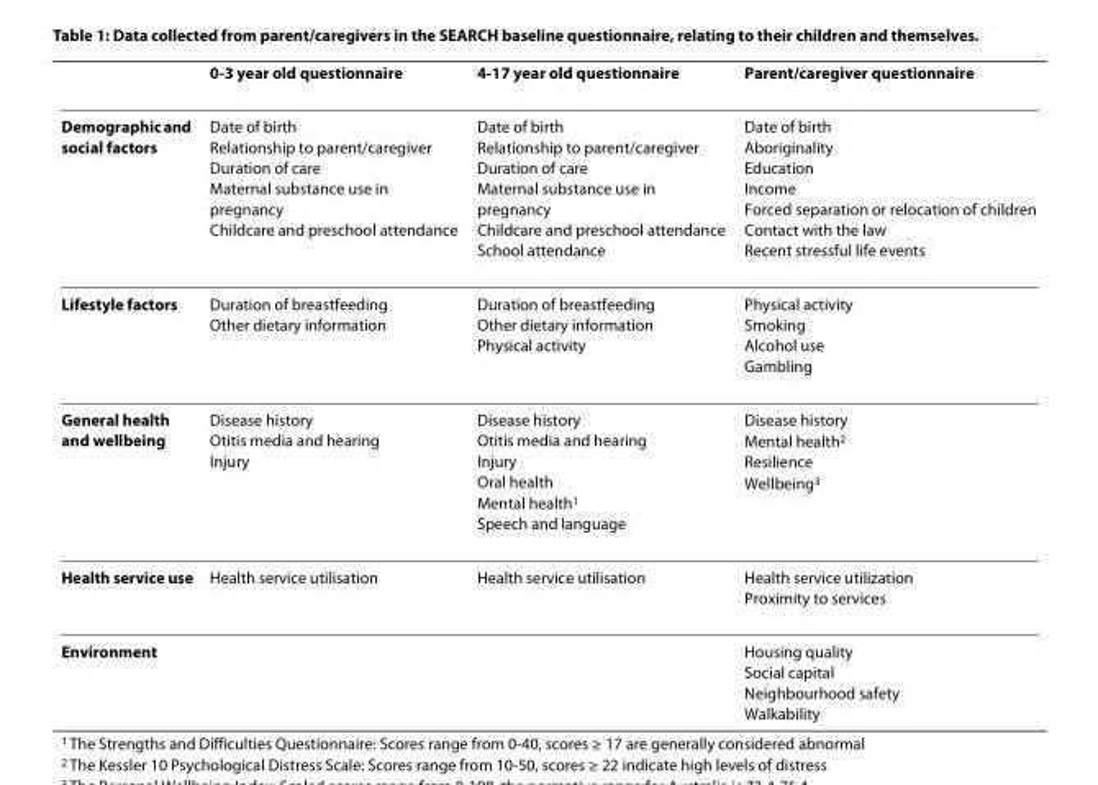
<table><thead><tr><td></td><td>0-3 year old questionnaire</td><td>4-17 year old questionnaire</td><td>Parent/caregiver questionnaire</td></tr></thead><tbody><tr><td>Demographic and social factors</td><td>Date of birth Relationship to parent/caregiver Duration of care Maternal substance use in pregnancy Childcare and preschool attendance</td><td>Date of birth Relationship to parent/caregiver Duration of care Maternal substance use in pregnancy Childcare and preschool attendance School attendance</td><td>Date of birth Aboriginality Education Income Forced separation or relocation of children Contact with the law Recent stressful life events</td></tr><tr><td>Lifestyle factors</td><td>Duration of breastfeeding Other dietary information</td><td>Duration of breastfeeding Other dietary information Physical activity</td><td>Physical activity Smoking Alcohol use Gambling</td></tr><tr><td>General health and wellbeing</td><td>Disease history Otitis media and hearing Injury</td><td>Disease history Otitis media and hearing Injury Oral health Mental health<sup>1</sup> Speech and language</td><td>Disease history Mental health<sup>2</sup> Resilience Wellbeing<sup>3</sup></td></tr><tr><td>Health service use</td><td>Health service utilisation</td><td>Health service utilisation</td><td>Health service utilization Proximity to services</td></tr><tr><td>Environment</td><td></td><td></td><td>Housing quality Social capital Neighbourhood safety Walkability</td></tr></tbody></table>